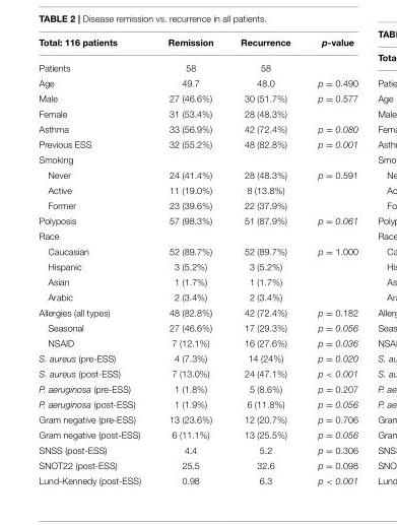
<table><thead><tr><td>Total: 116 patients</td><td>Remission</td><td>Recurrence</td><td>p-value</td></tr></thead><tbody><tr><td>Patients</td><td>58</td><td>58</td><td></td></tr><tr><td>Age</td><td>49.7</td><td>48.0</td><td>p = 0.490</td></tr><tr><td>Male</td><td>27 (46.6%)</td><td>30 (51.7%)</td><td>p = 0.577</td></tr><tr><td>Female</td><td>31 (53.4%)</td><td>28 (48.3%)</td><td></td></tr><tr><td>Asthma</td><td>33 (56.9%)</td><td>42 (72.4%)</td><td>p = 0.080</td></tr><tr><td>Previous ESS</td><td>32 (55.2%)</td><td>48 (82.8%)</td><td>p = 0.001</td></tr><tr><td colspan="4">Smoking</td></tr><tr><td>Never</td><td>24 (41.4%)</td><td>28 (48.3%)</td><td>p = 0.591</td></tr><tr><td>Active</td><td>11 (19.0%)</td><td>8 (13.8%)</td><td></td></tr><tr><td>Former</td><td>23 (39.6%)</td><td>22 (37.9%)</td><td></td></tr><tr><td>Polyposis</td><td>57 (98.3%)</td><td>51 (87.9%)</td><td>p = 0.061</td></tr><tr><td colspan="4">Race</td></tr><tr><td>Caucasian</td><td>52 (89.7%)</td><td>52 (89.7%)</td><td>p = 1.000</td></tr><tr><td>Hispanic</td><td>3 (5.2%)</td><td>3 (5.2%)</td><td></td></tr><tr><td>Asian</td><td>1 (1.7%)</td><td>1 (1.7%)</td><td></td></tr><tr><td>Arabic</td><td>2 (3.4%)</td><td>2 (3.4%)</td><td></td></tr><tr><td>Allergies (all types)</td><td>48 (82.8%)</td><td>42 (72.4%)</td><td>p = 0.182</td></tr><tr><td>Seasonal</td><td>27 (46.6%)</td><td>17 (29.3%)</td><td>p = 0.056</td></tr><tr><td>NSAID</td><td>7 (12.1%)</td><td>16 (27.6%)</td><td>p = 0.036</td></tr><tr><td>S. aureus (pre-ESS)</td><td>4 (7.3%)</td><td>14 (24%)</td><td>p = 0.020</td></tr><tr><td>S. aureus (post-ESS)</td><td>7 (13.0%)</td><td>24 (47.1%)</td><td>p &lt; 0.001</td></tr><tr><td>P. aeruginosa (pre-ESS)</td><td>1 (1.8%)</td><td>5 (8.6%)</td><td>p = 0.207</td></tr><tr><td>P. aeruginosa (post-ESS)</td><td>1 (1.9%)</td><td>6 (11.8%)</td><td>p = 0.056</td></tr><tr><td>Gram negative (pre-ESS)</td><td>13 (23.6%)</td><td>12 (20.7%)</td><td>p = 0.706</td></tr><tr><td>Gram negative (post-ESS)</td><td>6 (11.1%)</td><td>13 (25.5%)</td><td>p = 0.056</td></tr><tr><td>SNSS (post-ESS)</td><td>4.4</td><td>5.2</td><td>p = 0.306</td></tr><tr><td>SNOT22 (post-ESS)</td><td>25.5</td><td>32.6</td><td>p = 0.098</td></tr><tr><td>Lund-Kennedy (post-ESS)</td><td>0.98</td><td>6.3</td><td>p &lt; 0.001</td></tr></tbody></table>